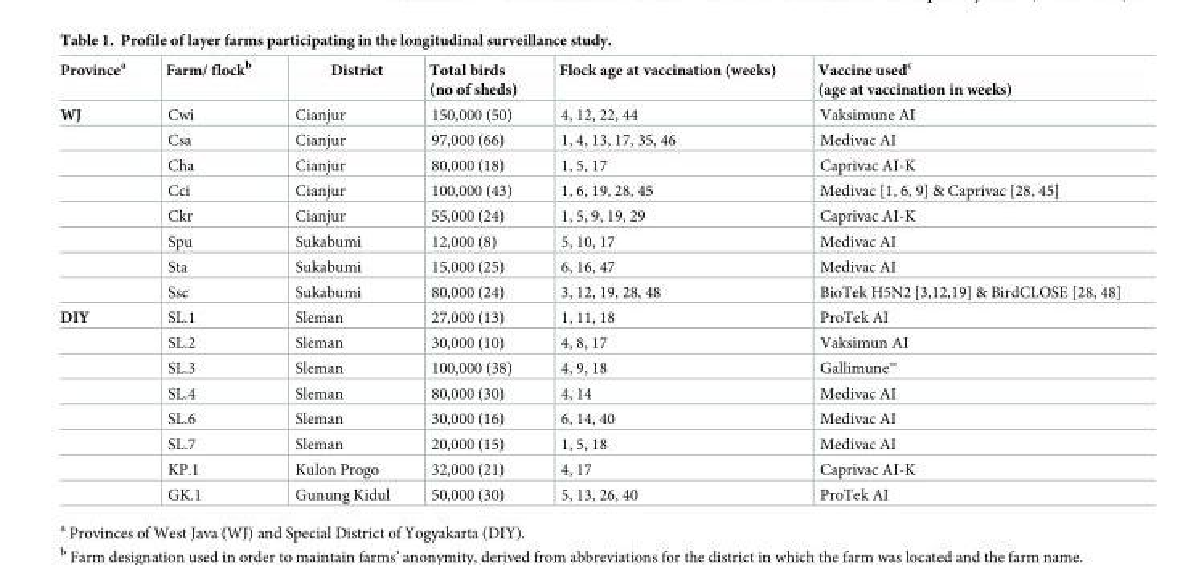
<table><thead><tr><td>Province<sup>a</sup></td><td>Farm/ flock<sup>b</sup></td><td>District</td><td>Total birds (no of sheds)</td><td>Flock age at vaccination (weeks)</td><td>Vaccine used<sup>c</sup> (age at vaccination in weeks)</td></tr></thead><tbody><tr><td rowspan="8">WJ</td><td>Cwi</td><td>Cianjur</td><td>150,000 (50)</td><td>4, 12, 22, 44</td><td>Vaksimune AI</td></tr><tr><td>Csa</td><td>Cianjur</td><td>97,000 (66)</td><td>1, 4, 13, 17, 35, 46</td><td>Medivac AI</td></tr><tr><td>Cha</td><td>Cianjur</td><td>80,000 (18)</td><td>1, 5, 17</td><td>Caprivac AI-K</td></tr><tr><td>Cci</td><td>Cianjur</td><td>100,000 (43)</td><td>1, 6, 19, 28, 45</td><td>Medivac [1, 6, 9] &amp; Caprivac [28, 45]</td></tr><tr><td>Ckr</td><td>Cianjur</td><td>55,000 (24)</td><td>1, 5, 9, 19, 29</td><td>Caprivac AI-K</td></tr><tr><td>Spu</td><td>Sukabumi</td><td>12,000 (8)</td><td>5, 10, 17</td><td>Medivac AI</td></tr><tr><td>Sta</td><td>Sukabumi</td><td>15,000 (25)</td><td>6, 16, 47</td><td>Medivac AI</td></tr><tr><td>Ssc</td><td>Sukabumi</td><td>80,000 (24)</td><td>3, 12, 19, 28, 48</td><td>BioTek H5N2 [3,12,19] &amp; BirdCLOSE [28, 48]</td></tr><tr><td rowspan="8">DIY</td><td>SL.1</td><td>Sleman</td><td>27,000 (13)</td><td>1, 11, 18</td><td>ProTek AI</td></tr><tr><td>SL.2</td><td>Sleman</td><td>30,000 (10)</td><td>4, 8, 17</td><td>Vaksimun AI</td></tr><tr><td>SL.3</td><td>Sleman</td><td>100,000 (38)</td><td>4, 9, 18</td><td>Gallimune™</td></tr><tr><td>SL.4</td><td>Sleman</td><td>80,000 (30)</td><td>4, 14</td><td>Medivac AI</td></tr><tr><td>SL.6</td><td>Sleman</td><td>30,000 (16)</td><td>6, 14, 40</td><td>Medivac AI</td></tr><tr><td>SL.7</td><td>Sleman</td><td>20,000 (15)</td><td>1, 5, 18</td><td>Medivac AI</td></tr><tr><td>KP.1</td><td>Kulon Progo</td><td>32,000 (21)</td><td>4, 17</td><td>Caprivac AI-K</td></tr><tr><td>GK.1</td><td>Gunung Kidul</td><td>50,000 (30)</td><td>5, 13, 26, 40</td><td>ProTek AI</td></tr></tbody></table>